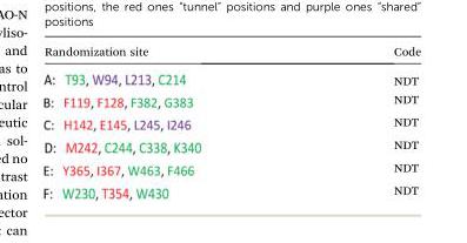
<table><thead><tr><td>Randomization site</td><td>Code</td></tr></thead><tbody><tr><td></td><td>NDT</td></tr><tr><td></td><td>NDT</td></tr><tr><td></td><td>NDT</td></tr><tr><td></td><td>NDT</td></tr><tr><td></td><td>NDT</td></tr><tr><td></td><td>NDT</td></tr></tbody></table>